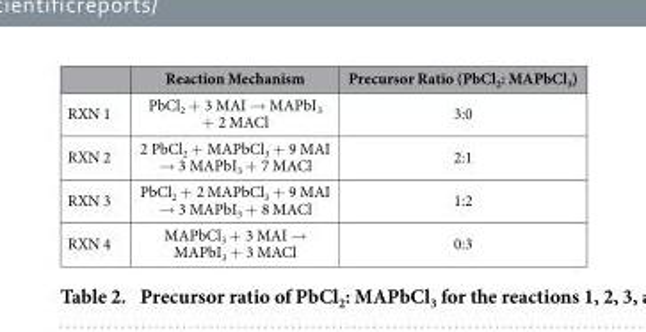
<table><thead><tr><td></td><td>Reaction Mechanism</td><td>Precursor Ratio (PbCl<sub>2</sub>: MAPbCl<sub>3</sub>)</td></tr></thead><tbody><tr><td>RXN 1</td><td>PbCl<sub>2</sub> + 3 MAI → MAPbI<sub>3</sub> + 2 MACl</td><td>3:0</td></tr><tr><td>RXN 2</td><td>2 PbCl<sub>2</sub> + MAPbCl<sub>3</sub> + 9 MAI → 3 MAPbI<sub>3</sub> + 7 MACl</td><td>2:1</td></tr><tr><td>RXN 3</td><td>PbCl<sub>2</sub> + 2 MAPbCl<sub>3</sub> + 9 MAI → 3 MAPbI<sub>3</sub> + 8 MACl</td><td>1:2</td></tr><tr><td>RXN 4</td><td>MAPbCl<sub>3</sub> + 3 MAI → MAPbI<sub>3</sub> + 3 MACl</td><td>0:3</td></tr></tbody></table>